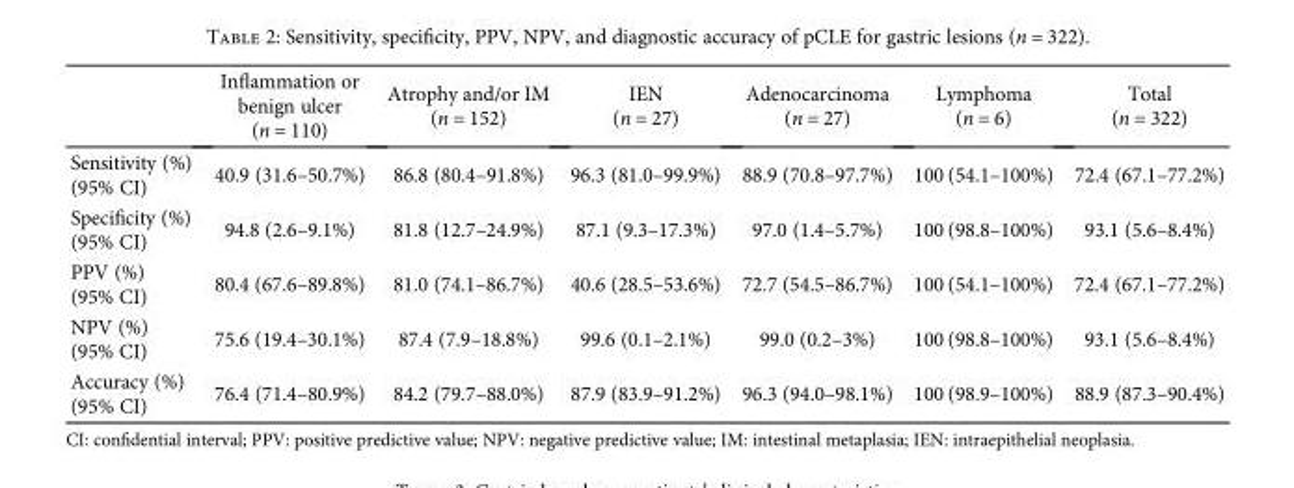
<table><thead><tr><td></td><td>Inflammation or benign ulcer (n = 110)</td><td>Atrophy and/or IM (n = 152)</td><td>IEN (n = 27)</td><td>Adenocarcinoma (n = 27)</td><td>Lymphoma (n = 6)</td><td>Total (n = 322)</td></tr></thead><tbody><tr><td>Sensitivity (%) (95% CI)</td><td>40.9 (31.6–50.7%)</td><td>86.8 (80.4–91.8%)</td><td>96.3 (81.0–99.9%)</td><td>88.9 (70.8–97.7%)</td><td>100 (54.1–100%)</td><td>72.4 (67.1–77.2%)</td></tr><tr><td>Specificity (%) (95% CI)</td><td>94.8 (2.6–9.1%)</td><td>81.8 (12.7–24.9%)</td><td>87.1 (9.3–17.3%)</td><td>97.0 (1.4–5.7%)</td><td>100 (98.8–100%)</td><td>93.1 (5.6–8.4%)</td></tr><tr><td>PPV (%) (95% CI)</td><td>80.4 (67.6–89.8%)</td><td>81.0 (74.1–86.7%)</td><td>40.6 (28.5–53.6%)</td><td>72.7 (54.5–86.7%)</td><td>100 (54.1–100%)</td><td>72.4 (67.1–77.2%)</td></tr><tr><td>NPV (%) (95% CI)</td><td>75.6 (19.4–30.1%)</td><td>87.4 (7.9–18.8%)</td><td>99.6 (0.1–2.1%)</td><td>99.0 (0.2–3%)</td><td>100 (98.8–100%)</td><td>93.1 (5.6–8.4%)</td></tr><tr><td>Accuracy (%) (95% CI)</td><td>76.4 (71.4–80.9%)</td><td>84.2 (79.7–88.0%)</td><td>87.9 (83.9–91.2%)</td><td>96.3 (94.0–98.1%)</td><td>100 (98.9–100%)</td><td>88.9 (87.3–90.4%)</td></tr></tbody></table>